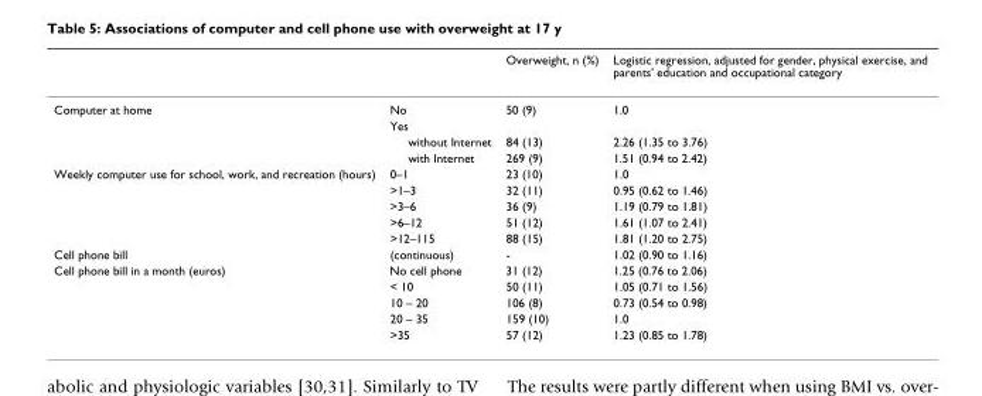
<table><thead><tr><td></td><td></td><td>Overweight, n (%)</td><td>Logistic regression, adjusted for gender, physical exercise, and parents&#x27; education and occupational category</td></tr></thead><tbody><tr><td rowspan="4">Computer at home</td><td>No</td><td>50 (9)</td><td>1.0</td></tr><tr><td>Yes</td><td></td><td></td></tr><tr><td>without Internet</td><td>84 (13)</td><td>2.26 (1.35 to 3.76)</td></tr><tr><td>with Internet</td><td>269 (9)</td><td>1.51 (0.94 to 2.42)</td></tr><tr><td rowspan="5">Weekly computer use for school, work, and recreation (hours)</td><td>0–1</td><td>23 (10)</td><td>1.0</td></tr><tr><td>&gt;1–3</td><td>32 (11)</td><td>0.95 (0.62 to 1.46)</td></tr><tr><td>&gt;3–6</td><td>36 (9)</td><td>1.19 (0.79 to 1.81)</td></tr><tr><td>&gt;6–12</td><td>51 (12)</td><td>1.61 (1.07 to 2.41)</td></tr><tr><td>&gt;12–115</td><td>88 (15)</td><td>1.81 (1.20 to 2.75)</td></tr><tr><td>Cell phone bill</td><td>(continuous)</td><td>-</td><td>1.02 (0.90 to 1.16)</td></tr><tr><td rowspan="5">Cell phone bill in a month (euros)</td><td>No cell phone</td><td>31 (12)</td><td>1.25 (0.76 to 2.06)</td></tr><tr><td>&lt; 10</td><td>50 (11)</td><td>1.05 (0.71 to 1.56)</td></tr><tr><td>10 – 20</td><td>106 (8)</td><td>0.73 (0.54 to 0.98)</td></tr><tr><td>20 – 35</td><td>159 (10)</td><td>1.0</td></tr><tr><td>&gt;35</td><td>57 (12)</td><td>1.23 (0.85 to 1.78)</td></tr></tbody></table>